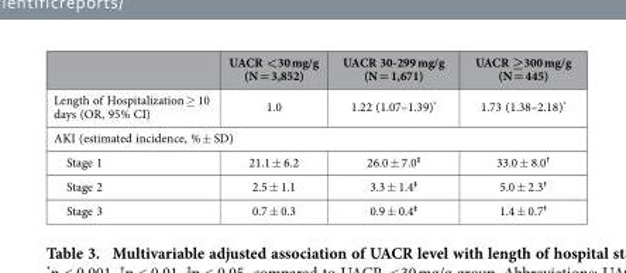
<table><thead><tr><td></td><td>UACR &lt;30 mg/g (N = 3,852)</td><td>UACR 30-299 mg/g (N = 1,671)</td><td>UACR ≥300 mg/g (N = 445)</td></tr></thead><tbody><tr><td>Length of Hospitalization ≥ 10 days (OR, 95% CI)</td><td>1.0</td><td>1.22 (1.07–1.39)*</td><td>1.73 (1.38–2.18)*</td></tr><tr><td colspan="4">AKI (estimated incidence, % ± SD)</td></tr><tr><td>Stage 1</td><td>21.1 ± 6.2</td><td>26.0 ± 7.0‡</td><td>33.0 ± 8.0†</td></tr><tr><td>Stage 2</td><td>2.5 ± 1.1</td><td>3.3 ± 1.4‡</td><td>5.0 ± 2.3†</td></tr><tr><td>Stage 3</td><td>0.7 ± 0.3</td><td>0.9 ± 0.4‡</td><td>1.4 ± 0.7†</td></tr></tbody></table>